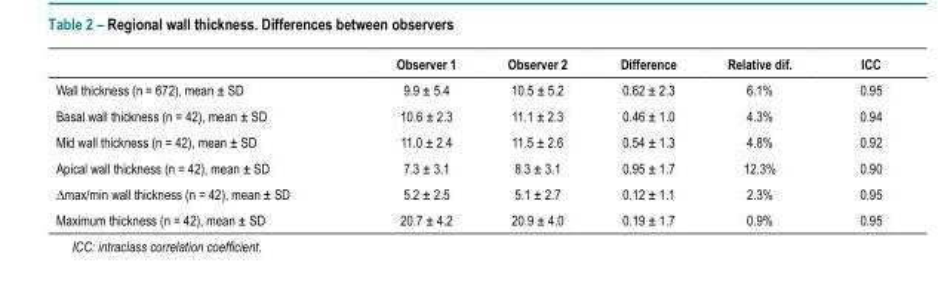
<table><thead><tr><td></td><td>Observer 1</td><td>Observer 2</td><td>Difference</td><td>Relative dif.</td><td>ICC</td></tr></thead><tbody><tr><td>Wall thickness (n = 672), mean ± SD</td><td>9.9 ± 5.4</td><td>10.5 ± 5.2</td><td>0.62 ± 2.3</td><td>6.1%</td><td>0.95</td></tr><tr><td>Basal wall thickness (n = 42), mean ± SD</td><td>10.6 ± 2.3</td><td>11.1 ± 2.3</td><td>0.46 ± 1.0</td><td>4.3%</td><td>0.94</td></tr><tr><td>Mid wall thickness (n = 42), mean ± SD</td><td>11.0 ± 2.4</td><td>11.5 ± 2.6</td><td>0.54 ± 1.3</td><td>4.8%</td><td>0.92</td></tr><tr><td>Apical wall thickness (n = 42), mean ± SD</td><td>7.3 ± 3.1</td><td>8.3 ± 3.1</td><td>0.95 ± 1.7</td><td>12.3%</td><td>0.90</td></tr><tr><td>∆max/min wall thickness (n = 42), mean ± SD</td><td>5.2 ± 2.5</td><td>5.1 ± 2.7</td><td>0.12 ± 1.1</td><td>2.3%</td><td>0.95</td></tr><tr><td>Maximum thickness (n = 42), mean ± SD</td><td>20.7 ± 4.2</td><td>20.9 ± 4.0</td><td>0.19 ± 1.7</td><td>0.9%</td><td>0.95</td></tr></tbody></table>